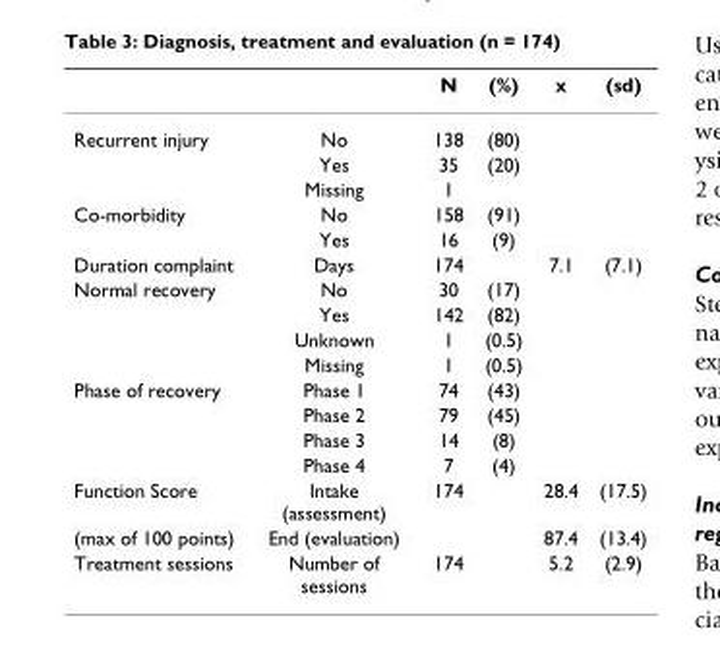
<table><thead><tr><td></td><td></td><td>N</td><td>(%)</td><td>x</td><td>(sd)</td></tr></thead><tbody><tr><td rowspan="3">Recurrent injury</td><td>No</td><td>138</td><td>(80)</td><td></td><td></td></tr><tr><td>Yes</td><td>35</td><td>(20)</td><td></td><td></td></tr><tr><td>Missing</td><td>1</td><td></td><td></td><td></td></tr><tr><td rowspan="2">Co-morbidity</td><td>No</td><td>158</td><td>(91)</td><td></td><td></td></tr><tr><td>Yes</td><td>16</td><td>(9)</td><td></td><td></td></tr><tr><td>Duration complaint</td><td>Days</td><td>174</td><td></td><td>7.1</td><td>(7.1)</td></tr><tr><td rowspan="4">Normal recovery</td><td>No</td><td>30</td><td>(17)</td><td></td><td></td></tr><tr><td>Yes</td><td>142</td><td>(82)</td><td></td><td></td></tr><tr><td>Unknown</td><td>1</td><td>(0.5)</td><td></td><td></td></tr><tr><td>Missing</td><td>1</td><td>(0.5)</td><td></td><td></td></tr><tr><td rowspan="4">Phase of recovery</td><td>Phase 1</td><td>74</td><td>(43)</td><td></td><td></td></tr><tr><td>Phase 2</td><td>79</td><td>(45)</td><td></td><td></td></tr><tr><td>Phase 3</td><td>14</td><td>(8)</td><td></td><td></td></tr><tr><td>Phase 4</td><td>7</td><td>(4)</td><td></td><td></td></tr><tr><td>Function Score</td><td>Intake (assessment)</td><td>174</td><td></td><td>28.4</td><td>(17.5)</td></tr><tr><td>(max of 100 points)</td><td>End (evaluation)</td><td></td><td></td><td>87.4</td><td>(13.4)</td></tr><tr><td>Treatment sessions</td><td>Number of sessions</td><td>174</td><td></td><td>5.2</td><td>(2.9)</td></tr></tbody></table>